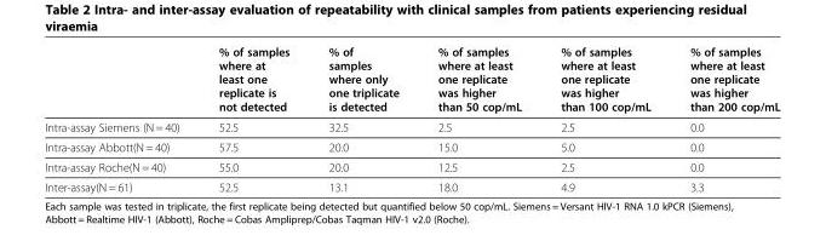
<table><thead><tr><td></td><td>% of samples where at least one replicate is not detected</td><td>% of samples where only one triplicate is detected</td><td>% of samples where at least one replicate was higher than 50 cop/mL</td><td>% of samples where at least one replicate was higher than 100 cop/mL</td><td>% of samples where at least one replicate was higher than 200 cop/mL</td></tr></thead><tbody><tr><td>Intra-assay Siemens (N = 40)</td><td>52.5</td><td>32.5</td><td>2.5</td><td>2.5</td><td>0.0</td></tr><tr><td>Intra-assay Abbott(N = 40)</td><td>57.5</td><td>20.0</td><td>15.0</td><td>5.0</td><td>0.0</td></tr><tr><td>Intra-assay Roche(N = 40)</td><td>55.0</td><td>20.0</td><td>12.5</td><td>2.5</td><td>0.0</td></tr><tr><td>Inter-assay(N = 61)</td><td>52.5</td><td>13.1</td><td>18.0</td><td>4.9</td><td>3.3</td></tr></tbody></table>